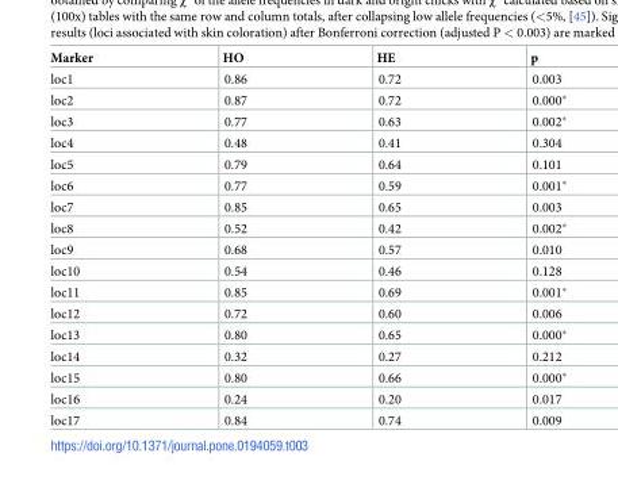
<table><thead><tr><td>Marker</td><td>HO</td><td>HE</td><td>p</td></tr></thead><tbody><tr><td>loc1</td><td>0.86</td><td>0.72</td><td>0.003</td></tr><tr><td>loc2</td><td>0.87</td><td>0.72</td><td>0.000*</td></tr><tr><td>loc3</td><td>0.77</td><td>0.63</td><td>0.002*</td></tr><tr><td>loc4</td><td>0.48</td><td>0.41</td><td>0.304</td></tr><tr><td>loc5</td><td>0.79</td><td>0.64</td><td>0.101</td></tr><tr><td>loc6</td><td>0.77</td><td>0.59</td><td>0.001*</td></tr><tr><td>loc7</td><td>0.85</td><td>0.65</td><td>0.003</td></tr><tr><td>loc8</td><td>0.52</td><td>0.42</td><td>0.002*</td></tr><tr><td>loc9</td><td>0.68</td><td>0.57</td><td>0.010</td></tr><tr><td>loc10</td><td>0.54</td><td>0.46</td><td>0.128</td></tr><tr><td>loc11</td><td>0.85</td><td>0.69</td><td>0.001*</td></tr><tr><td>loc12</td><td>0.72</td><td>0.60</td><td>0.006</td></tr><tr><td>loc13</td><td>0.80</td><td>0.65</td><td>0.000*</td></tr><tr><td>loc14</td><td>0.32</td><td>0.27</td><td>0.212</td></tr><tr><td>loc15</td><td>0.80</td><td>0.66</td><td>0.000*</td></tr><tr><td>loc16</td><td>0.24</td><td>0.20</td><td>0.017</td></tr><tr><td>loc17</td><td>0.84</td><td>0.74</td><td>0.009</td></tr></tbody></table>